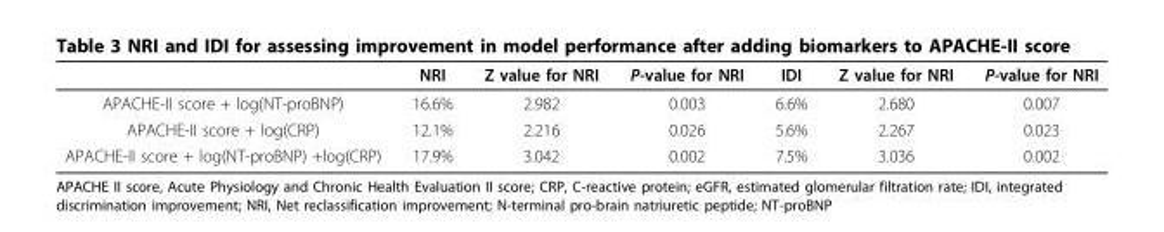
<table><thead><tr><td></td><td>NRI</td><td>Z value for NRI</td><td>P-value for NRI</td><td>IDI</td><td>Z value for NRI</td><td>P-value for NRI</td></tr></thead><tbody><tr><td>APACHE-II score + log(NT-proBNP)</td><td>16.6%</td><td>2.982</td><td>0.003</td><td>6.6%</td><td>2.680</td><td>0.007</td></tr><tr><td>APACHE-II score + log(CRP)</td><td>12.1%</td><td>2.216</td><td>0.026</td><td>5.6%</td><td>2.267</td><td>0.023</td></tr><tr><td>APACHE-II score + log(NT-proBNP) +log(CRP)</td><td>17.9%</td><td>3.042</td><td>0.002</td><td>7.5%</td><td>3.036</td><td>0.002</td></tr></tbody></table>